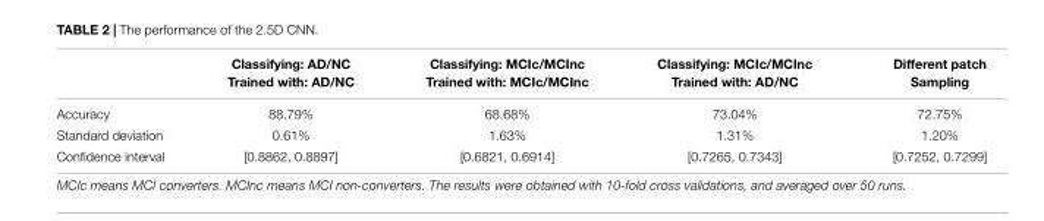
<table><thead><tr><td></td><td>Classifying: AD/NC Trained with: AD/NC</td><td>Classifying: MCIc/MCInc Trained with: MCIc/MCInc</td><td>Classifying: MCIc/MCInc Trained with: AD/NC</td><td>Different patch Sampling</td></tr></thead><tbody><tr><td>Accuracy</td><td>88.79%</td><td>68.68%</td><td>73.04%</td><td>72.75%</td></tr><tr><td>Standard deviation</td><td>0.61%</td><td>1.63%</td><td>1.31%</td><td>1.20%</td></tr><tr><td>Confidence interval</td><td>[0.8862, 0.8897]</td><td>[0.6821, 0.6914]</td><td>[0.7265, 0.7343]</td><td>[0.7252, 0.7299]</td></tr></tbody></table>